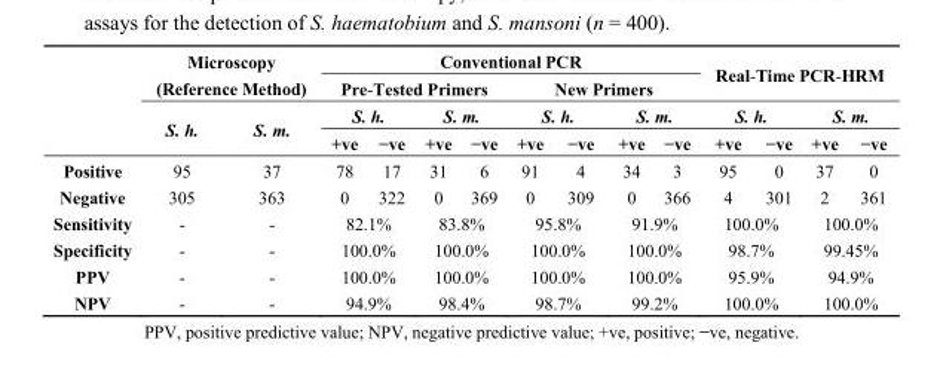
<table><thead><tr><td rowspan="4"></td><td rowspan="2" colspan="2">Microscopy (Reference Method)</td><td colspan="8">Conventional PCR</td><td rowspan="2" colspan="4">Real-Time PCR-HRM</td></tr><tr><td colspan="4">Pre-Tested Primers</td><td colspan="4">New Primers</td></tr><tr><td rowspan="2">S. h.</td><td rowspan="2">S. m.</td><td colspan="2">S. h.</td><td colspan="2">S. m.</td><td colspan="2">S. h.</td><td colspan="2">S. m.</td><td colspan="2">S. h.</td><td colspan="2">S. m.</td></tr><tr><td>+ve</td><td>−ve</td><td>+ve</td><td>−ve</td><td>+ve</td><td>−ve</td><td>+ve</td><td>−ve</td><td>+ve</td><td>−ve</td><td>+ve</td><td>−ve</td></tr></thead><tbody><tr><td>Positive</td><td>95</td><td>37</td><td>78</td><td>17</td><td>31</td><td>6</td><td>91</td><td>4</td><td>34</td><td>3</td><td>95</td><td>0</td><td>37</td><td>0</td></tr><tr><td>Negative</td><td>305</td><td>363</td><td>0</td><td>322</td><td>0</td><td>369</td><td>0</td><td>309</td><td>0</td><td>366</td><td>4</td><td>301</td><td>2</td><td>361</td></tr><tr><td>Sensitivity</td><td>-</td><td>-</td><td colspan="2">82.1%</td><td colspan="2">83.8%</td><td colspan="2">95.8%</td><td colspan="2">91.9%</td><td colspan="2">100.0%</td><td colspan="2">100.0%</td></tr><tr><td>Specificity</td><td>-</td><td>-</td><td colspan="2">100.0%</td><td colspan="2">100.0%</td><td colspan="2">100.0%</td><td colspan="2">100.0%</td><td colspan="2">98.7%</td><td colspan="2">99.45%</td></tr><tr><td>PPV</td><td>-</td><td>-</td><td colspan="2">100.0%</td><td colspan="2">100.0%</td><td colspan="2">100.0%</td><td colspan="2">100.0%</td><td colspan="2">95.9%</td><td colspan="2">94.9%</td></tr><tr><td>NPV</td><td>-</td><td>-</td><td colspan="2">94.9%</td><td colspan="2">98.4%</td><td colspan="2">98.7%</td><td colspan="2">99.2%</td><td colspan="2">100.0%</td><td colspan="2">100.0%</td></tr></tbody></table>